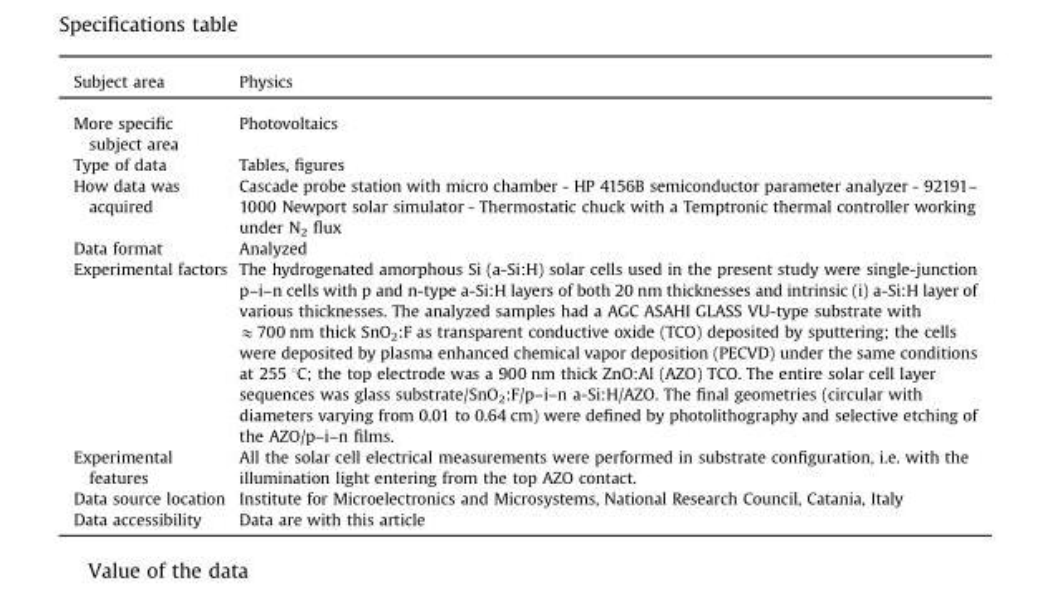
<table><thead><tr><td>Subject area</td><td>Physics</td></tr></thead><tbody><tr><td>More specific subject area</td><td>Photovoltaics</td></tr><tr><td>Type of data</td><td>Tables, figures</td></tr><tr><td>How data was acquired</td><td>Cascade probe station with micro chamber - HP 4156B semiconductor parameter analyzer - 92191– 1000 Newport solar simulator - Thermostatic chuck with a Temptronic thermal controller working under N<sub>2</sub> flux</td></tr><tr><td>Data format</td><td>Analyzed</td></tr><tr><td>Experimental factors</td><td>The hydrogenated amorphous Si (a-Si:H) solar cells used in the present study were single-junction p–i–n cells with p and n-type a-Si:H layers of both 20 nm thicknesses and intrinsic (i) a-Si:H layer of various thicknesses. The analyzed samples had a AGC ASAHI GLASS VU-type substrate with ≈700 nm thick SnO<sub>2</sub>:F as transparent conductive oxide (TCO) deposited by sputtering; the cells were deposited by plasma enhanced chemical vapor deposition (PECVD) under the same conditions at 255 °C; the top electrode was a 900 nm thick ZnO:Al (AZO) TCO. The entire solar cell layer sequences was glass substrate/SnO<sub>2</sub>:F/p–i–n a-Si:H/AZO. The final geometries (circular with diameters varying from 0.01 to 0.64 cm) were defined by photolithography and selective etching of the AZO/p–i–n films.</td></tr><tr><td>Experimental features</td><td>All the solar cell electrical measurements were performed in substrate configuration, i.e. with the illumination light entering from the top AZO contact.</td></tr><tr><td>Data source location</td><td>Institute for Microelectronics and Microsystems, National Research Council, Catania, Italy</td></tr><tr><td>Data accessibility</td><td>Data are with this article</td></tr></tbody></table>